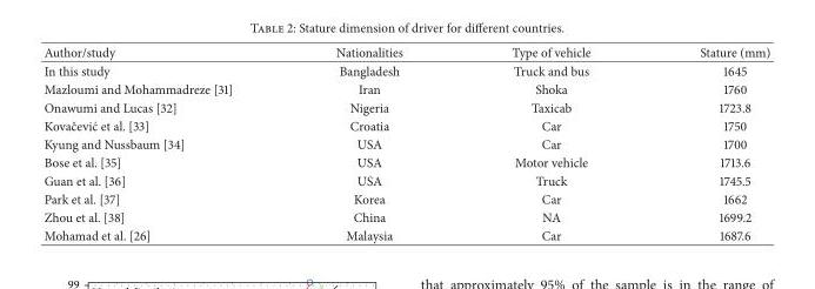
<table><thead><tr><td>Author/study</td><td>Nationalities</td><td>Type of vehicle</td><td>Stature (mm)</td></tr></thead><tbody><tr><td>In this study</td><td>Bangladesh</td><td>Truck and bus</td><td>1645</td></tr><tr><td>Mazloumi and Mohammadreze [31]</td><td>Iran</td><td>Shoka</td><td>1760</td></tr><tr><td>Onawumi and Lucas [32]</td><td>Nigeria</td><td>Taxicab</td><td>1723.8</td></tr><tr><td>Kovaˇcevi´c et al. [33]</td><td>Croatia</td><td>Car</td><td>1750</td></tr><tr><td>Kyung and Nussbaum [34]</td><td>USA</td><td>Car</td><td>1700</td></tr><tr><td>Bose et al. [35]</td><td>USA</td><td>Motor vehicle</td><td>1713.6</td></tr><tr><td>Guan et al. [36]</td><td>USA</td><td>Truck</td><td>1745.5</td></tr><tr><td>Park et al. [37]</td><td>Korea</td><td>Car</td><td>1662</td></tr><tr><td>Zhou et al. [38]</td><td>China</td><td>NA</td><td>1699.2</td></tr><tr><td>Mohamad et al. [26]</td><td>Malaysia</td><td>Car</td><td>1687.6</td></tr></tbody></table>